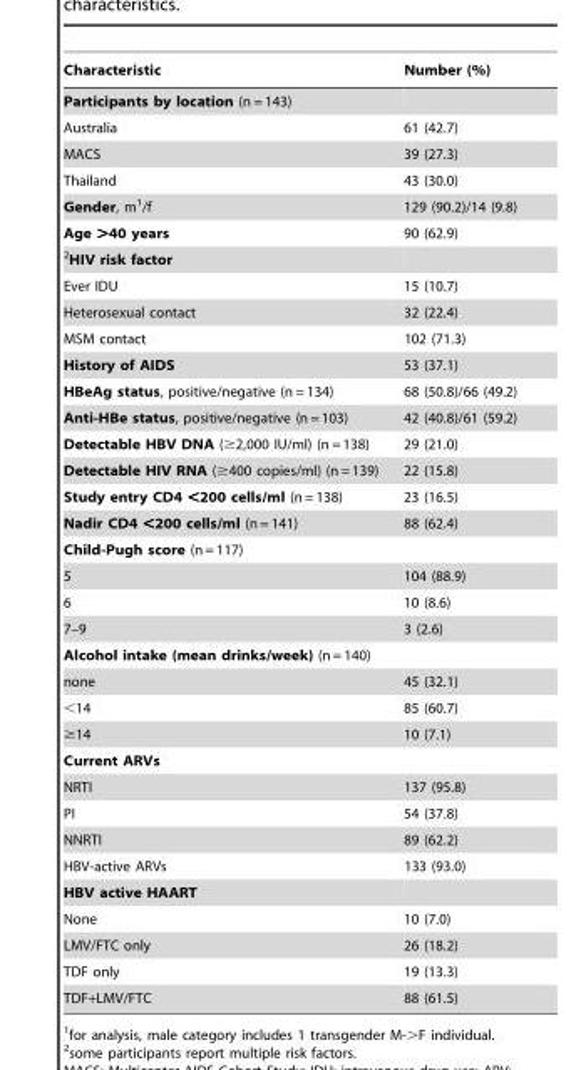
<table><thead><tr><td>Characteristic</td><td>Number (%)</td></tr></thead><tbody><tr><td colspan="2">Participants by location (n = 143)</td></tr><tr><td>Australia</td><td>61 (42.7)</td></tr><tr><td>MACS</td><td>39 (27.3)</td></tr><tr><td>Thailand</td><td>43 (30.0)</td></tr><tr><td>Gender, m<sup>1</sup>/f</td><td>129 (90.2)/14 (9.8)</td></tr><tr><td>Age &gt;40 years</td><td>90 (62.9)</td></tr><tr><td colspan="2">2HIV risk factor</td></tr><tr><td>Ever IDU</td><td>15 (10.7)</td></tr><tr><td>Heterosexual contact</td><td>32 (22.4)</td></tr><tr><td>MSM contact</td><td>102 (71.3)</td></tr><tr><td>History of AIDS</td><td>53 (37.1)</td></tr><tr><td>HBeAg status, positive/negative (n = 134)</td><td>68 (50.8)/66 (49.2)</td></tr><tr><td>Anti-HBe status, positive/negative (n = 103)</td><td>42 (40.8)/61 (59.2)</td></tr><tr><td>Detectable HBV DNA (≥2,000 IU/ml) (n = 138)</td><td>29 (21.0)</td></tr><tr><td>Detectable HIV RNA (≥400 copies/ml) (n = 139)</td><td>22 (15.8)</td></tr><tr><td>Study entry CD4 &lt;200 cells/ml (n = 138)</td><td>23 (16.5)</td></tr><tr><td>Nadir CD4 &lt;200 cells/ml (n = 141)</td><td>88 (62.4)</td></tr><tr><td colspan="2">Child-Pugh score (n = 117)</td></tr><tr><td>5</td><td>104 (88.9)</td></tr><tr><td>6</td><td>10 (8.6)</td></tr><tr><td>7–9</td><td>3 (2.6)</td></tr><tr><td colspan="2">Alcohol intake (mean drinks/week) (n = 140)</td></tr><tr><td>none</td><td>45 (32.1)</td></tr><tr><td>&lt;14</td><td>85 (60.7)</td></tr><tr><td>≥14</td><td>10 (7.1)</td></tr><tr><td colspan="2">Current ARVs</td></tr><tr><td>NRTI</td><td>137 (95.8)</td></tr><tr><td>PI</td><td>54 (37.8)</td></tr><tr><td>NNRTI</td><td>89 (62.2)</td></tr><tr><td>HBV-active ARVs</td><td>133 (93.0)</td></tr><tr><td colspan="2">HBV active HAART</td></tr><tr><td>None</td><td>10 (7.0)</td></tr><tr><td>LMV/FTC only</td><td>26 (18.2)</td></tr><tr><td>TDF only</td><td>19 (13.3)</td></tr><tr><td>TDF+LMV/FTC</td><td>88 (61.5)</td></tr></tbody></table>